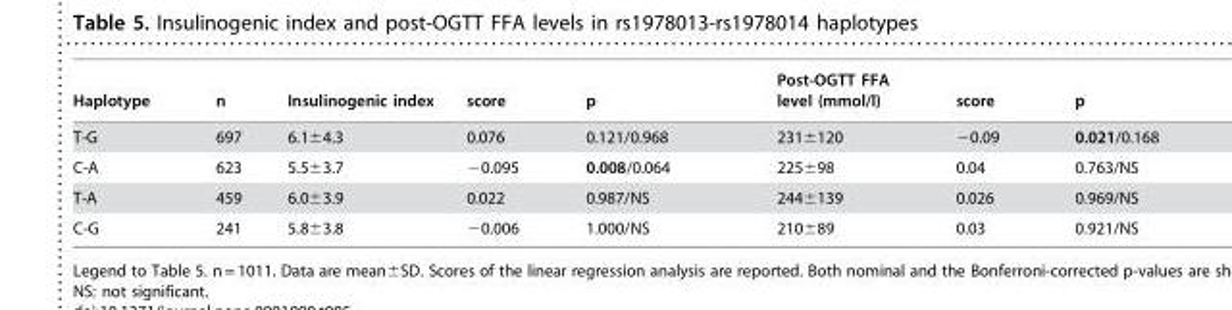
<table><thead><tr><td>Haplotype</td><td>n</td><td>Insulinogenic index</td><td>score</td><td>p</td><td>Post-OGTT FFA level (mmol/l)</td><td>score</td><td>p</td></tr></thead><tbody><tr><td>T-G</td><td>697</td><td>6.1±4.3</td><td>0.076</td><td>0.121/0.968</td><td>231±120</td><td>−0.09</td><td>0.021/0.168</td></tr><tr><td>C-A</td><td>623</td><td>5.5±3.7</td><td>−0.095</td><td>0.008/0.064</td><td>225±98</td><td>0.04</td><td>0.763/NS</td></tr><tr><td>T-A</td><td>459</td><td>6.0±3.9</td><td>0.022</td><td>0.987/NS</td><td>244±139</td><td>0.026</td><td>0.969/NS</td></tr><tr><td>C-G</td><td>241</td><td>5.8±3.8</td><td>−0.006</td><td>1.000/NS</td><td>210±89</td><td>0.03</td><td>0.921/NS</td></tr></tbody></table>